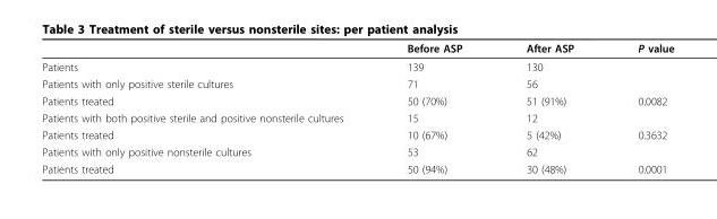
<table><thead><tr><td></td><td>Before ASP</td><td>After ASP</td><td>P value</td></tr></thead><tbody><tr><td>Patients</td><td>139</td><td>130</td><td></td></tr><tr><td>Patients with only positive sterile cultures</td><td>71</td><td>56</td><td></td></tr><tr><td>Patients treated</td><td>50 (70%)</td><td>51 (91%)</td><td>0.0082</td></tr><tr><td>Patients with both positive sterile and positive nonsterile cultures</td><td>15</td><td>12</td><td></td></tr><tr><td>Patients treated</td><td>10 (67%)</td><td>5 (42%)</td><td>0.3632</td></tr><tr><td>Patients with only positive nonsterile cultures</td><td>53</td><td>62</td><td></td></tr><tr><td>Patients treated</td><td>50 (94%)</td><td>30 (48%)</td><td>0.0001</td></tr></tbody></table>